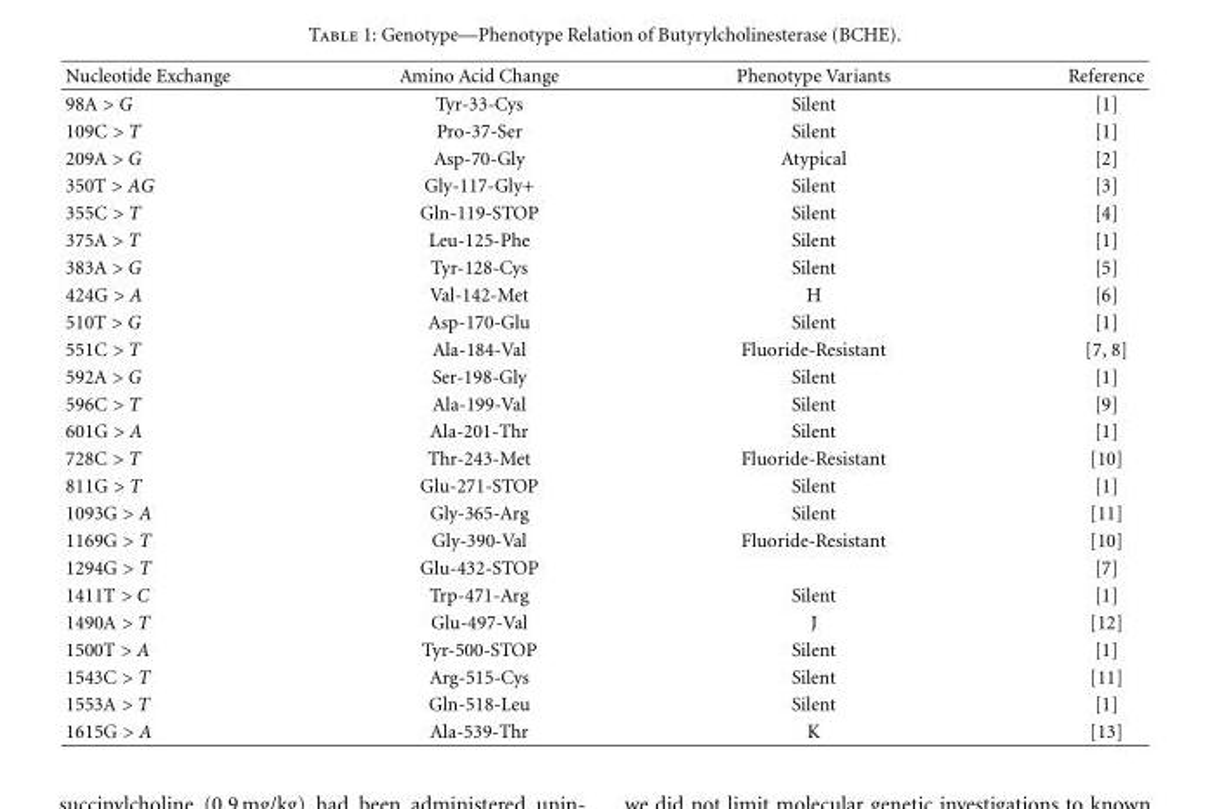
<table><thead><tr><td>Nucleotide Exchange</td><td>Amino Acid Change</td><td>Phenotype Variants</td><td>Reference</td></tr></thead><tbody><tr><td>98A &gt; G</td><td>Tyr-33-Cys</td><td>Silent</td><td>[1]</td></tr><tr><td>109C &gt; T</td><td>Pro-37-Ser</td><td>Silent</td><td>[1]</td></tr><tr><td>209A &gt; G</td><td>Asp-70-Gly</td><td>Atypical</td><td>[2]</td></tr><tr><td>350T &gt; AG</td><td>Gly-117-Gly+</td><td>Silent</td><td>[3]</td></tr><tr><td>355C &gt; T</td><td>Gln-119-STOP</td><td>Silent</td><td>[4]</td></tr><tr><td>375A &gt; T</td><td>Leu-125-Phe</td><td>Silent</td><td>[1]</td></tr><tr><td>383A &gt; G</td><td>Tyr-128-Cys</td><td>Silent</td><td>[5]</td></tr><tr><td>424G &gt; A</td><td>Val-142-Met</td><td>H</td><td>[6]</td></tr><tr><td>510T &gt; G</td><td>Asp-170-Glu</td><td>Silent</td><td>[1]</td></tr><tr><td>551C &gt; T</td><td>Ala-184-Val</td><td>Fluoride-Resistant</td><td>[7, 8]</td></tr><tr><td>592A &gt; G</td><td>Ser-198-Gly</td><td>Silent</td><td>[1]</td></tr><tr><td>596C &gt; T</td><td>Ala-199-Val</td><td>Silent</td><td>[9]</td></tr><tr><td>601G &gt; A</td><td>Ala-201-Thr</td><td>Silent</td><td>[1]</td></tr><tr><td>728C &gt; T</td><td>Thr-243-Met</td><td>Fluoride-Resistant</td><td>[10]</td></tr><tr><td>811G &gt; T</td><td>Glu-271-STOP</td><td>Silent</td><td>[1]</td></tr><tr><td>1093G &gt; A</td><td>Gly-365-Arg</td><td>Silent</td><td>[11]</td></tr><tr><td>1169G &gt; T</td><td>Gly-390-Val</td><td>Fluoride-Resistant</td><td>[10]</td></tr><tr><td>1294G &gt; T</td><td>Glu-432-STOP</td><td></td><td>[7]</td></tr><tr><td>1411T &gt; C</td><td>Trp-471-Arg</td><td>Silent</td><td>[1]</td></tr><tr><td>1490A &gt; T</td><td>Glu-497-Val</td><td>J</td><td>[12]</td></tr><tr><td>1500T &gt; A</td><td>Tyr-500-STOP</td><td>Silent</td><td>[1]</td></tr><tr><td>1543C &gt; T</td><td>Arg-515-Cys</td><td>Silent</td><td>[11]</td></tr><tr><td>1553A &gt; T</td><td>Gln-518-Leu</td><td>Silent</td><td>[1]</td></tr><tr><td>1615G &gt; A</td><td>Ala-539-Thr</td><td>K</td><td>[13]</td></tr></tbody></table>